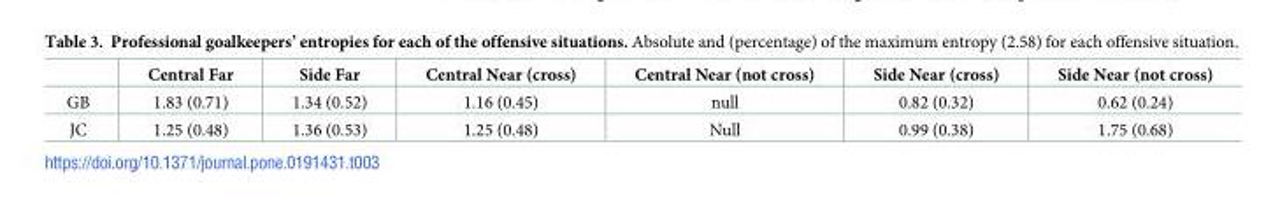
<table><thead><tr><td></td><td>Central Far</td><td>Side Far</td><td>Central Near (cross)</td><td>Central Near (not cross)</td><td>Side Near (cross)</td><td>Side Near (not cross)</td></tr></thead><tbody><tr><td>GB</td><td>1.83 (0.71)</td><td>1.34 (0.52)</td><td>1.16 (0.45)</td><td>null</td><td>0.82 (0.32)</td><td>0.62 (0.24)</td></tr><tr><td>JC</td><td>1.25 (0.48)</td><td>1.36 (0.53)</td><td>1.25 (0.48)</td><td>Null</td><td>0.99 (0.38)</td><td>1.75 (0.68)</td></tr></tbody></table>